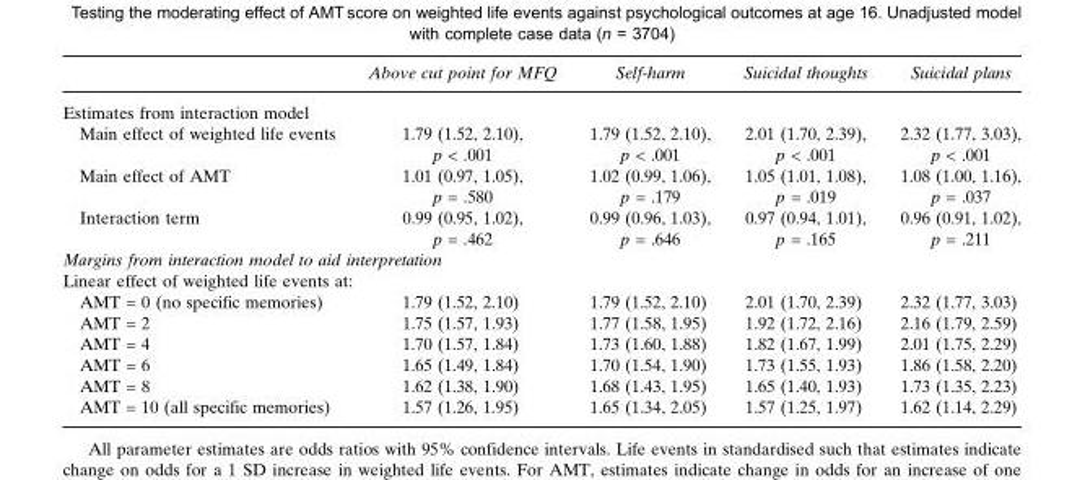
<table><thead><tr><td></td><td>Above cut point for MFQ</td><td>Self-harm</td><td>Suicidal thoughts</td><td>Suicidal plans</td></tr></thead><tbody><tr><td colspan="5">Estimates from interaction model</td></tr><tr><td>Main effect of weighted life events</td><td>1.79 (1.52, 2.10), p &lt; .001</td><td>1.79 (1.52, 2.10), p &lt; .001</td><td>2.01 (1.70, 2.39), p &lt; .001</td><td>2.32 (1.77, 3.03), p &lt; .001</td></tr><tr><td>Main effect of AMT</td><td>1.01 (0.97, 1.05), p = .580</td><td>1.02 (0.99, 1.06), p = .179</td><td>1.05 (1.01, 1.08), p = .019</td><td>1.08 (1.00, 1.16), p = .037</td></tr><tr><td>Interaction term</td><td>0.99 (0.95, 1.02), p = .462</td><td>0.99 (0.96, 1.03), p = .646</td><td>0.97 (0.94, 1.01), p = .165</td><td>0.96 (0.91, 1.02), p = .211</td></tr><tr><td colspan="5">Margins from interaction model to aid interpretation</td></tr><tr><td colspan="5">Linear effect of weighted life events at:</td></tr><tr><td>AMT = 0 (no specific memories)</td><td>1.79 (1.52, 2.10)</td><td>1.79 (1.52, 2.10)</td><td>2.01 (1.70, 2.39)</td><td>2.32 (1.77, 3.03)</td></tr><tr><td>AMT = 2</td><td>1.75 (1.57, 1.93)</td><td>1.77 (1.58, 1.95)</td><td>1.92 (1.72, 2.16)</td><td>2.16 (1.79, 2.59)</td></tr><tr><td>AMT = 4</td><td>1.70 (1.57, 1.84)</td><td>1.73 (1.60, 1.88)</td><td>1.82 (1.67, 1.99)</td><td>2.01 (1.75, 2.29)</td></tr><tr><td>AMT = 6</td><td>1.65 (1.49, 1.84)</td><td>1.70 (1.54, 1.90)</td><td>1.73 (1.55, 1.93)</td><td>1.86 (1.58, 2.20)</td></tr><tr><td>AMT = 8</td><td>1.62 (1.38, 1.90)</td><td>1.68 (1.43, 1.95)</td><td>1.65 (1.40, 1.93)</td><td>1.73 (1.35, 2.23)</td></tr><tr><td>AMT = 10 (all specific memories)</td><td>1.57 (1.26, 1.95)</td><td>1.65 (1.34, 2.05)</td><td>1.57 (1.25, 1.97)</td><td>1.62 (1.14, 2.29)</td></tr></tbody></table>